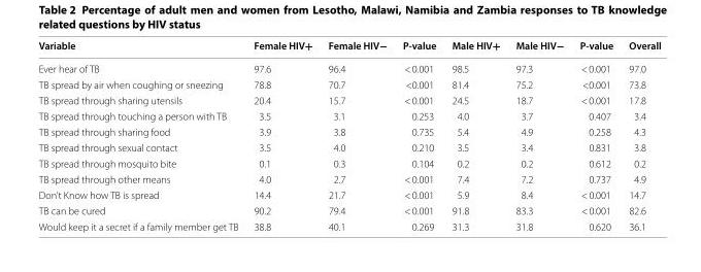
<table><thead><tr><td>Variable</td><td>Female HIV+</td><td>Female HIV−</td><td>P-value</td><td>Male HIV+</td><td>Male HIV−</td><td>P-value</td><td>Overall</td></tr></thead><tbody><tr><td>Ever hear of TB</td><td>97.6</td><td>96.4</td><td>&lt; 0.001</td><td>98.5</td><td>97.3</td><td>&lt; 0.001</td><td>97.0</td></tr><tr><td>TB spread by air when coughing or sneezing</td><td>78.8</td><td>70.7</td><td>&lt;0.001</td><td>81.4</td><td>75.2</td><td>&lt;0.001</td><td>73.8</td></tr><tr><td>TB spread through sharing utensils</td><td>20.4</td><td>15.7</td><td>&lt; 0.001</td><td>24.5</td><td>18.7</td><td>&lt; 0.001</td><td>17.8</td></tr><tr><td>TB spread through touching a person with TB</td><td>3.5</td><td>3.1</td><td>0.253</td><td>4.0</td><td>3.7</td><td>0.407</td><td>3.4</td></tr><tr><td>TB spread through sharing food</td><td>3.9</td><td>3.8</td><td>0.735</td><td>5.4</td><td>4.9</td><td>0.258</td><td>4.3</td></tr><tr><td>TB spread through sexual contact</td><td>3.5</td><td>4.0</td><td>0.210</td><td>3.5</td><td>3.4</td><td>0.831</td><td>3.8</td></tr><tr><td>TB spread through mosquito bite</td><td>0.1</td><td>0.3</td><td>0.104</td><td>0.2</td><td>0.2</td><td>0.612</td><td>0.2</td></tr><tr><td>TB spread through other means</td><td>4.0</td><td>2.7</td><td>&lt; 0.001</td><td>7.4</td><td>7.2</td><td>0.737</td><td>4.9</td></tr><tr><td>Don’t Know how TB is spread</td><td>14.4</td><td>21.7</td><td>&lt; 0.001</td><td>5.9</td><td>8.4</td><td>&lt; 0.001</td><td>14.7</td></tr><tr><td>TB can be cured</td><td>90.2</td><td>79.4</td><td>&lt; 0.001</td><td>91.8</td><td>83.3</td><td>&lt; 0.001</td><td>82.6</td></tr><tr><td>Would keep it a secret if a family member get TB</td><td>38.8</td><td>40.1</td><td>0.269</td><td>31.3</td><td>31.8</td><td>0.620</td><td>36.1</td></tr></tbody></table>